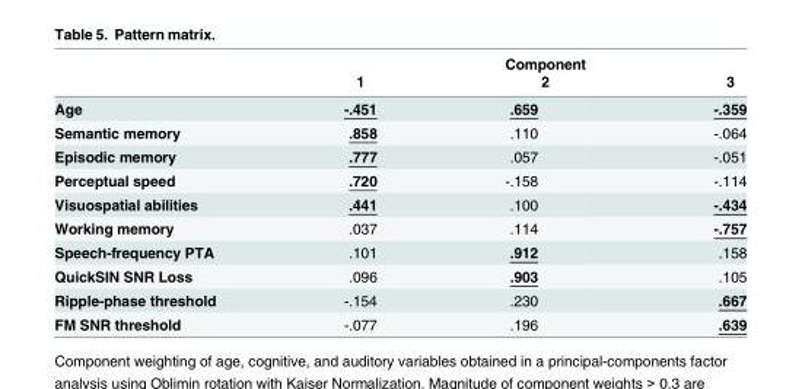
<table><thead><tr><td rowspan="2"></td><td rowspan="2">1</td><td rowspan="2">Component 2</td><td rowspan="2">3</td></tr><tr></tr></thead><tbody><tr><td>Age</td><td>-.451</td><td>.659</td><td>-.359</td></tr><tr><td>Semantic memory</td><td>.858</td><td>.110</td><td>-.064</td></tr><tr><td>Episodic memory</td><td>.777</td><td>.057</td><td>-.051</td></tr><tr><td>Perceptual speed</td><td>.720</td><td>-.158</td><td>-.114</td></tr><tr><td>Visuospatial abilities</td><td>.441</td><td>.100</td><td>-.434</td></tr><tr><td>Working memory</td><td>.037</td><td>.114</td><td>-.757</td></tr><tr><td>Speech-frequency PTA</td><td>.101</td><td>.912</td><td>.158</td></tr><tr><td>QuickSIN SNR Loss</td><td>.096</td><td>.903</td><td>.105</td></tr><tr><td>Ripple-phase threshold</td><td>-.154</td><td>.230</td><td>.667</td></tr><tr><td>FM SNR threshold</td><td>-.077</td><td>.196</td><td>.639</td></tr></tbody></table>